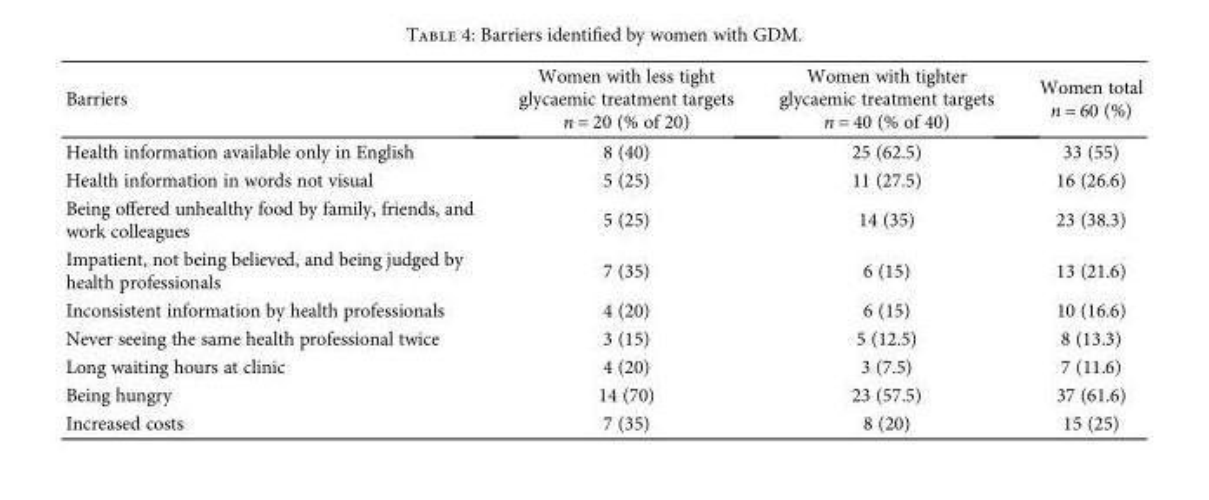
<table><thead><tr><td>Barriers</td><td>Women with less tight glycaemic treatment targets n = 20 (% of 20)</td><td>Women with tighter glycaemic treatment targets n = 40 (% of 40)</td><td>Women total n = 60 (%)</td></tr></thead><tbody><tr><td>Health information available only in English</td><td>8 (40)</td><td>25 (62.5)</td><td>33 (55)</td></tr><tr><td>Health information in words not visual</td><td>5 (25)</td><td>11 (27.5)</td><td>16 (26.6)</td></tr><tr><td>Being offered unhealthy food by family, friends, and work colleagues</td><td>5 (25)</td><td>14 (35)</td><td>23 (38.3)</td></tr><tr><td>Impatient, not being believed, and being judged by health professionals</td><td>7 (35)</td><td>6 (15)</td><td>13 (21.6)</td></tr><tr><td>Inconsistent information by health professionals</td><td>4 (20)</td><td>6 (15)</td><td>10 (16.6)</td></tr><tr><td>Never seeing the same health professional twice</td><td>3 (15)</td><td>5 (12.5)</td><td>8 (13.3)</td></tr><tr><td>Long waiting hours at clinic</td><td>4 (20)</td><td>3 (7.5)</td><td>7 (11.6)</td></tr><tr><td>Being hungry</td><td>14 (70)</td><td>23 (57.5)</td><td>37 (61.6)</td></tr><tr><td>Increased costs</td><td>7 (35)</td><td>8 (20)</td><td>15 (25)</td></tr></tbody></table>